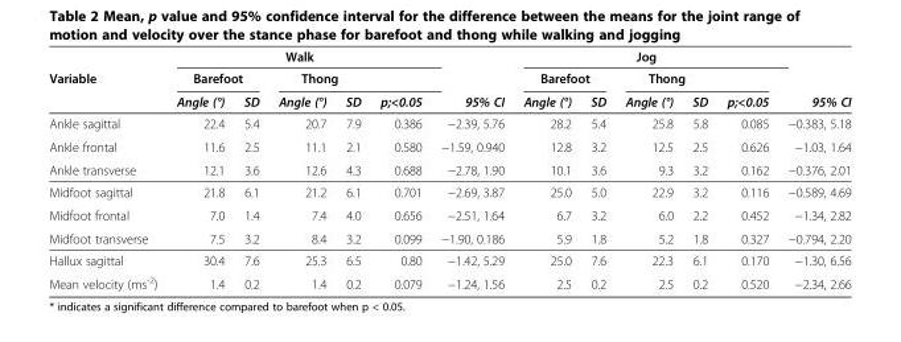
<table><thead><tr><td rowspan="3">Variable</td><td colspan="5">Walk</td><td rowspan="3">95% CI</td><td colspan="5">Jog</td><td rowspan="3">95% CI</td></tr><tr><td colspan="2">Barefoot</td><td colspan="2">Thong</td><td rowspan="2">p;&lt;0.05</td><td colspan="2">Barefoot</td><td colspan="2">Thong</td><td rowspan="2">p;&lt;0.05</td></tr><tr><td>Angle (°)</td><td>SD</td><td>Angle (°)</td><td>SD</td><td>Angle (°)</td><td>SD</td><td>Angle (°)</td><td>SD</td></tr></thead><tbody><tr><td>Ankle sagittal</td><td>22.4</td><td>5.4</td><td>20.7</td><td>7.9</td><td>0.386</td><td>−2.39, 5.76</td><td>28.2</td><td>5.4</td><td>25.8</td><td>5.8</td><td>0.085</td><td>−0.383, 5.18</td></tr><tr><td>Ankle frontal</td><td>11.6</td><td>2.5</td><td>11.1</td><td>2.1</td><td>0.580</td><td>−1.59, 0.940</td><td>12.8</td><td>3.2</td><td>12.5</td><td>2.5</td><td>0.626</td><td>−1.03, 1.64</td></tr><tr><td>Ankle transverse</td><td>12.1</td><td>3.6</td><td>12.6</td><td>4.3</td><td>0.688</td><td>−2.78, 1.90</td><td>10.1</td><td>3.6</td><td>9.3</td><td>3.2</td><td>0.162</td><td>−0.376, 2.01</td></tr><tr><td>Midfoot sagittal</td><td>21.8</td><td>6.1</td><td>21.2</td><td>6.1</td><td>0.701</td><td>−2.69, 3.87</td><td>25.0</td><td>5.0</td><td>22.9</td><td>3.2</td><td>0.116</td><td>−0.589, 4.69</td></tr><tr><td>Midfoot frontal</td><td>7.0</td><td>1.4</td><td>7.4</td><td>4.0</td><td>0.656</td><td>−2.51, 1.64</td><td>6.7</td><td>3.2</td><td>6.0</td><td>2.2</td><td>0.452</td><td>−1.34, 2.82</td></tr><tr><td>Midfoot transverse</td><td>7.5</td><td>3.2</td><td>8.4</td><td>3.2</td><td>0.099</td><td>−1.90, 0.186</td><td>5.9</td><td>1.8</td><td>5.2</td><td>1.8</td><td>0.327</td><td>−0.794, 2.20</td></tr><tr><td>Hallux sagittal</td><td>30.4</td><td>7.6</td><td>25.3</td><td>6.5</td><td>0.80</td><td>−1.42, 5.29</td><td>25.0</td><td>7.6</td><td>22.3</td><td>6.1</td><td>0.170</td><td>−1.30, 6.56</td></tr><tr><td>Mean velocity (ms<sup>-2</sup>)</td><td>1.4</td><td>0.2</td><td>1.4</td><td>0.2</td><td>0.079</td><td>−1.24, 1.56</td><td>2.5</td><td>0.2</td><td>2.5</td><td>0.2</td><td>0.520</td><td>−2.34, 2.66</td></tr></tbody></table>